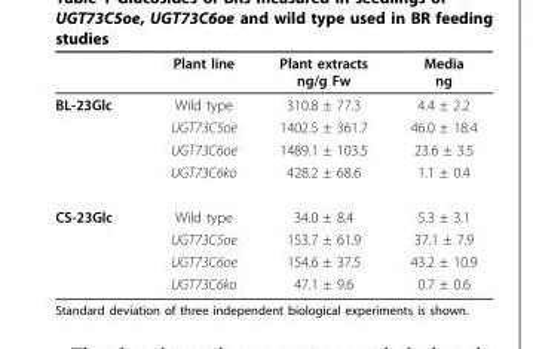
<table><thead><tr><td></td><td>Plant line</td><td>Plant extracts ng/g Fw</td><td>Media ng</td></tr></thead><tbody><tr><td rowspan="4">BL-23Glc</td><td>Wild type</td><td>310.8 ± 77.3</td><td>4.4 ± 2.2</td></tr><tr><td>UGT73C5oe</td><td>1402.5 ± 361.7</td><td>46.0 ± 18.4</td></tr><tr><td>UGT73C6oe</td><td>1489.1 ± 103.5</td><td>23.6 ± 3.5</td></tr><tr><td>UGT73C6ko</td><td>428.2 ± 68.6</td><td>1.1 ± 0.4</td></tr><tr><td rowspan="4">CS-23Glc</td><td>Wild type</td><td>34.0 ± 8.4</td><td>5.3 ± 3.1</td></tr><tr><td>UGT73C5oe</td><td>153.7 ± 61.9</td><td>37.1 ± 7.9</td></tr><tr><td>UGT73C6oe</td><td>154.6 ± 37.5</td><td>43.2 ± 10.9</td></tr><tr><td>UGT73C6ko</td><td>47.1 ± 9.6</td><td>0.7 ± 0.6</td></tr></tbody></table>